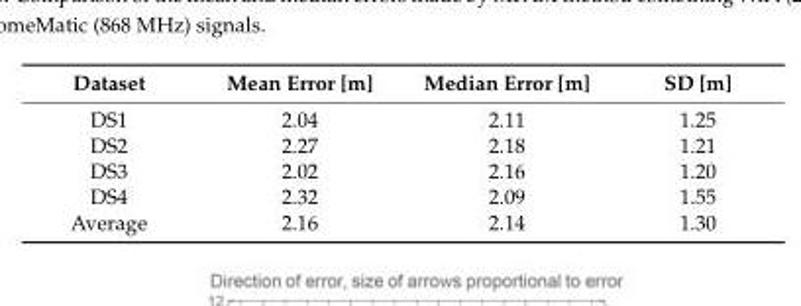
<table><thead><tr><td>Dataset</td><td>Mean Error [m]</td><td>Median Error [m]</td><td>SD [m]</td></tr></thead><tbody><tr><td>DS1</td><td>2.04</td><td>2.11</td><td>1.25</td></tr><tr><td>DS2</td><td>2.27</td><td>2.18</td><td>1.21</td></tr><tr><td>DS3</td><td>2.02</td><td>2.16</td><td>1.20</td></tr><tr><td>DS4</td><td>2.32</td><td>2.09</td><td>1.55</td></tr><tr><td>Average</td><td>2.16</td><td>2.14</td><td>1.30</td></tr></tbody></table>